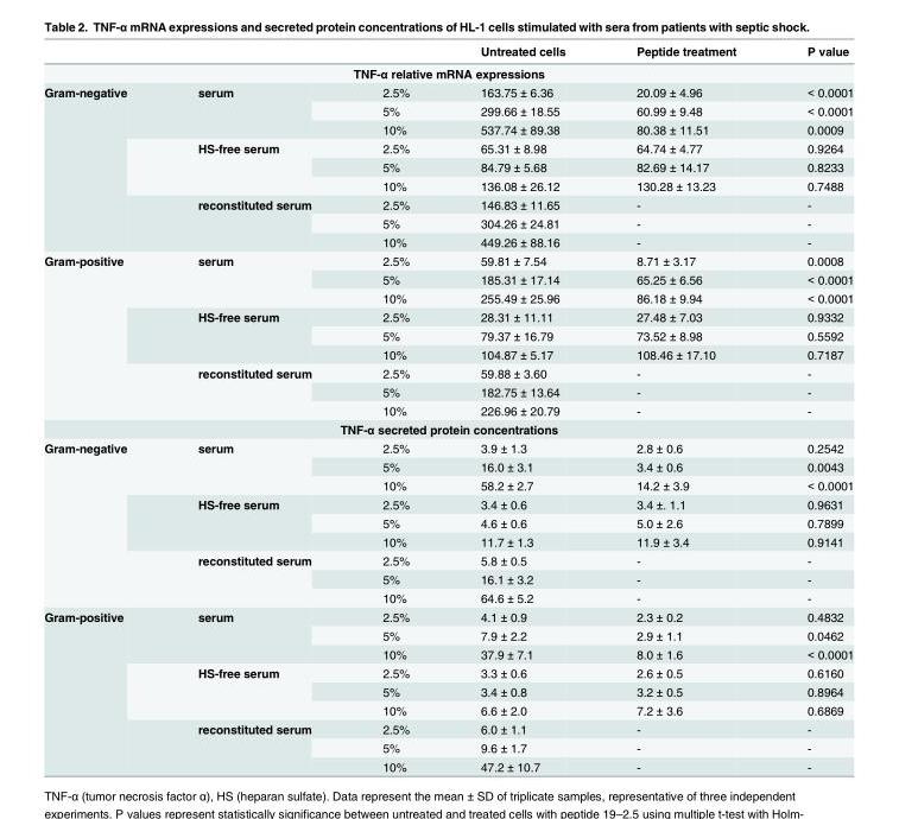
<table><thead><tr><td></td><td></td><td></td><td>Untreated cells</td><td>Peptide treatment</td><td>P value</td></tr></thead><tbody><tr><td colspan="6">TNF-α relative mRNA expressions</td></tr><tr><td rowspan="9">Gram-negative</td><td rowspan="3">serum</td><td>2.5%</td><td>163.75 ± 6.36</td><td>20.09 ± 4.96</td><td>&lt; 0.0001</td></tr><tr><td>5%</td><td>299.66 ± 18.55</td><td>60.99 ± 9.48</td><td>&lt; 0.0001</td></tr><tr><td>10%</td><td>537.74 ± 89.38</td><td>80.38 ± 11.51</td><td>0.0009</td></tr><tr><td rowspan="3">HS-free serum</td><td>2.5%</td><td>65.31 ± 8.98</td><td>64.74 ± 4.77</td><td>0.9264</td></tr><tr><td>5%</td><td>84.79 ± 5.68</td><td>82.69 ± 14.17</td><td>0.8233</td></tr><tr><td>10%</td><td>136.08 ± 26.12</td><td>130.28 ± 13.23</td><td>0.7488</td></tr><tr><td rowspan="3">reconstituted serum</td><td>2.5%</td><td>146.83 ± 11.65</td><td>-</td><td>-</td></tr><tr><td>5%</td><td>304.26 ± 24.81</td><td>-</td><td>-</td></tr><tr><td>10%</td><td>449.26 ± 88.16</td><td>-</td><td>-</td></tr><tr><td rowspan="9">Gram-positive</td><td rowspan="3">serum</td><td>2.5%</td><td>59.81 ± 7.54</td><td>8.71 ± 3.17</td><td>0.0008</td></tr><tr><td>5%</td><td>185.31 ± 17.14</td><td>65.25 ± 6.56</td><td>&lt; 0.0001</td></tr><tr><td>10%</td><td>255.49 ± 25.96</td><td>86.18 ± 9.94</td><td>&lt; 0.0001</td></tr><tr><td rowspan="3">HS-free serum</td><td>2.5%</td><td>28.31 ± 11.11</td><td>27.48 ± 7.03</td><td>0.9332</td></tr><tr><td>5%</td><td>79.37 ± 16.79</td><td>73.52 ± 8.98</td><td>0.5592</td></tr><tr><td>10%</td><td>104.87 ± 5.17</td><td>108.46 ± 17.10</td><td>0.7187</td></tr><tr><td rowspan="3">reconstituted serum</td><td>2.5%</td><td>59.88 ± 3.60</td><td>-</td><td>-</td></tr><tr><td>5%</td><td>182.75 ± 13.64</td><td>-</td><td>-</td></tr><tr><td>10%</td><td>226.96 ± 20.79</td><td>-</td><td>-</td></tr><tr><td colspan="6">TNF-α secreted protein concentrations</td></tr><tr><td rowspan="9">Gram-negative</td><td rowspan="3">serum</td><td>2.5%</td><td>3.9 ± 1.3</td><td>2.8 ± 0.6</td><td>0.2542</td></tr><tr><td>5%</td><td>16.0 ± 3.1</td><td>3.4 ± 0.6</td><td>0.0043</td></tr><tr><td>10%</td><td>58.2 ± 2.7</td><td>14.2 ± 3.9</td><td>&lt; 0.0001</td></tr><tr><td rowspan="3">HS-free serum</td><td>2.5%</td><td>3.4 ± 0.6</td><td>3.4 ±. 1.1</td><td>0.9631</td></tr><tr><td>5%</td><td>4.6 ± 0.6</td><td>5.0 ± 2.6</td><td>0.7899</td></tr><tr><td>10%</td><td>11.7 ± 1.3</td><td>11.9 ± 3.4</td><td>0.9141</td></tr><tr><td rowspan="3">reconstituted serum</td><td>2.5%</td><td>5.8 ± 0.5</td><td>-</td><td>-</td></tr><tr><td>5%</td><td>16.1 ± 3.2</td><td>-</td><td>-</td></tr><tr><td>10%</td><td>64.6 ± 5.2</td><td>-</td><td>-</td></tr><tr><td rowspan="9">Gram-positive</td><td rowspan="3">serum</td><td>2.5%</td><td>4.1 ± 0.9</td><td>2.3 ± 0.2</td><td>0.4832</td></tr><tr><td>5%</td><td>7.9 ± 2.2</td><td>2.9 ± 1.1</td><td>0.0462</td></tr><tr><td>10%</td><td>37.9 ± 7.1</td><td>8.0 ± 1.6</td><td>&lt; 0.0001</td></tr><tr><td rowspan="3">HS-free serum</td><td>2.5%</td><td>3.3 ± 0.6</td><td>2.6 ± 0.5</td><td>0.6160</td></tr><tr><td>5%</td><td>3.4 ± 0.8</td><td>3.2 ± 0.5</td><td>0.8964</td></tr><tr><td>10%</td><td>6.6 ± 2.0</td><td>7.2 ± 3.6</td><td>0.6869</td></tr><tr><td rowspan="3">reconstituted serum</td><td>2.5%</td><td>6.0 ± 1.1</td><td>-</td><td>-</td></tr><tr><td>5%</td><td>9.6 ± 1.7</td><td>-</td><td>-</td></tr><tr><td>10%</td><td>47.2 ± 10.7</td><td>-</td><td>-</td></tr></tbody></table>